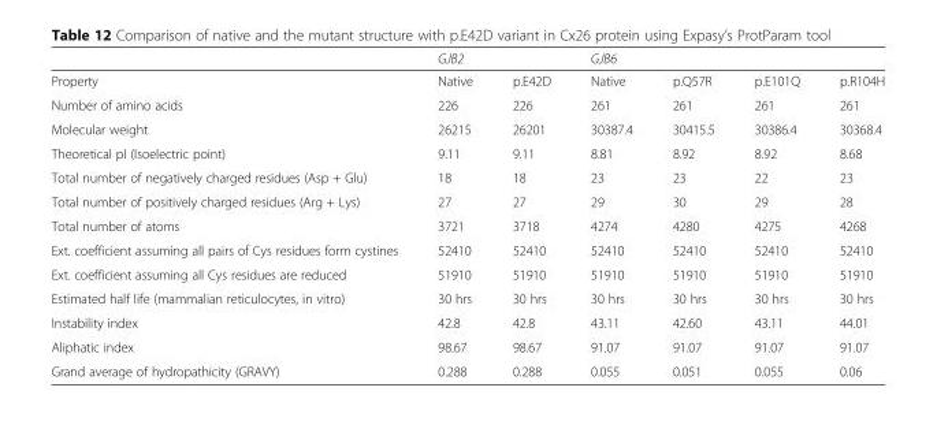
<table><thead><tr><td rowspan="2">Property</td><td colspan="2">GJB2</td><td colspan="4">GJB6</td></tr><tr><td>Native</td><td>p.E42D</td><td>Native</td><td>p.Q57R</td><td>p.E101Q</td><td>p.R104H</td></tr></thead><tbody><tr><td>Number of amino acids</td><td>226</td><td>226</td><td>261</td><td>261</td><td>261</td><td>261</td></tr><tr><td>Molecular weight</td><td>26215</td><td>26201</td><td>30387.4</td><td>30415.5</td><td>30386.4</td><td>30368.4</td></tr><tr><td>Theoretical pI (Isoelectric point)</td><td>9.11</td><td>9.11</td><td>8.81</td><td>8.92</td><td>8.92</td><td>8.68</td></tr><tr><td>Total number of negatively charged residues (Asp + Glu)</td><td>18</td><td>18</td><td>23</td><td>23</td><td>22</td><td>23</td></tr><tr><td>Total number of positively charged residues (Arg + Lys)</td><td>27</td><td>27</td><td>29</td><td>30</td><td>29</td><td>28</td></tr><tr><td>Total number of atoms</td><td>3721</td><td>3718</td><td>4274</td><td>4280</td><td>4275</td><td>4268</td></tr><tr><td>Ext. coefficient assuming all pairs of Cys residues form cystines</td><td>52410</td><td>52410</td><td>52410</td><td>52410</td><td>52410</td><td>52410</td></tr><tr><td>Ext. coefficient assuming all Cys residues are reduced</td><td>51910</td><td>51910</td><td>51910</td><td>51910</td><td>51910</td><td>51910</td></tr><tr><td>Estimated half life (mammalian reticulocytes, in vitro)</td><td>30 hrs</td><td>30 hrs</td><td>30 hrs</td><td>30 hrs</td><td>30 hrs</td><td>30 hrs</td></tr><tr><td>Instability index</td><td>42.8</td><td>42.8</td><td>43.11</td><td>42.60</td><td>43.11</td><td>44.01</td></tr><tr><td>Aliphatic index</td><td>98.67</td><td>98.67</td><td>91.07</td><td>91.07</td><td>91.07</td><td>91.07</td></tr><tr><td>Grand average of hydropathicity (GRAVY)</td><td>0.288</td><td>0.288</td><td>0.055</td><td>0.051</td><td>0.055</td><td>0.06</td></tr></tbody></table>